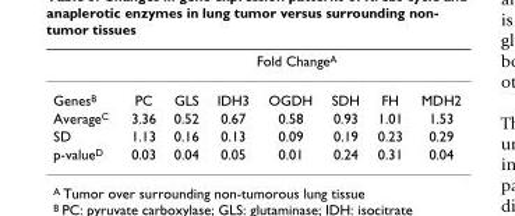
<table><thead><tr><td rowspan="2">Genes<sup>B</sup></td><td colspan="7">Fold Change<sup>A</sup></td></tr><tr><td>PC</td><td>GLS</td><td>IDH3</td><td>OGDH</td><td>SDH</td><td>FH</td><td>MDH2</td></tr></thead><tbody><tr><td>Average<sup>C</sup></td><td>3.36</td><td>0.52</td><td>0.67</td><td>0.58</td><td>0.93</td><td>1.01</td><td>1.53</td></tr><tr><td>SD</td><td>1.13</td><td>0.16</td><td>0.13</td><td>0.09</td><td>0.19</td><td>0.23</td><td>0.29</td></tr><tr><td>p-value<sup>D</sup></td><td>0.03</td><td>0.04</td><td>0.05</td><td>0.01</td><td>0.24</td><td>0.31</td><td>0.04</td></tr></tbody></table>